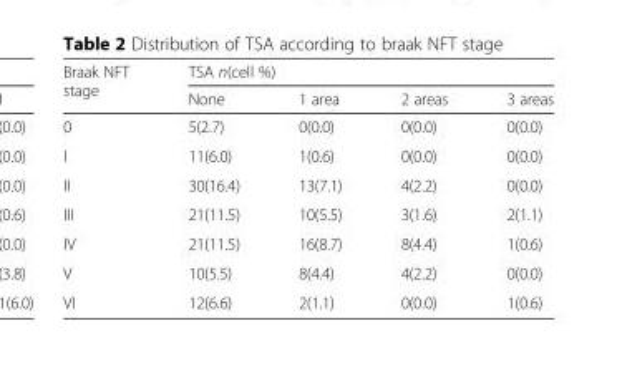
<table><thead><tr><td rowspan="2">Braak NFT stage</td><td colspan="4">TSA n(cell %)</td></tr><tr><td>None</td><td>1 area</td><td>2 areas</td><td>3 areas</td></tr></thead><tbody><tr><td>0</td><td>5(2.7)</td><td>0(0.0)</td><td>0(0.0)</td><td>0(0.0)</td></tr><tr><td>I</td><td>11(6.0)</td><td>1(0.6)</td><td>0(0.0)</td><td>0(0.0)</td></tr><tr><td>II</td><td>30(16.4)</td><td>13(7.1)</td><td>4(2.2)</td><td>0(0.0)</td></tr><tr><td>III</td><td>21(11.5)</td><td>10(5.5)</td><td>3(1.6)</td><td>2(1.1)</td></tr><tr><td>IV</td><td>21(11.5)</td><td>16(8.7)</td><td>8(4.4)</td><td>1(0.6)</td></tr><tr><td>V</td><td>10(5.5)</td><td>8(4.4)</td><td>4(2.2)</td><td>0(0.0)</td></tr><tr><td>VI</td><td>12(6.6)</td><td>2(1.1)</td><td>0(0.0)</td><td>1(0.6)</td></tr></tbody></table>